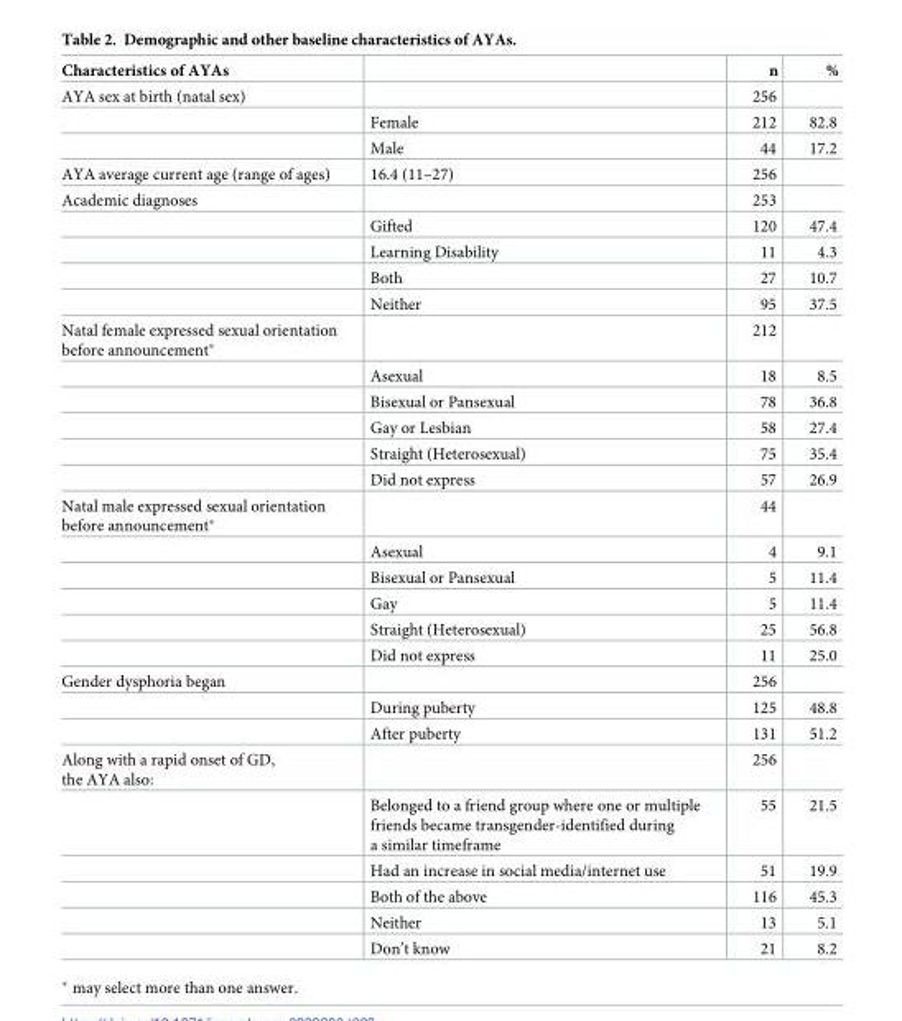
<table><thead><tr><td>Characteristics of AYAs</td><td></td><td>n</td><td>%</td></tr></thead><tbody><tr><td rowspan="3">AYA sex at birth (natal sex)</td><td></td><td>256</td><td></td></tr><tr><td>Female</td><td>212</td><td>82.8</td></tr><tr><td>Male</td><td>44</td><td>17.2</td></tr><tr><td>AYA average current age (range of ages)</td><td>16.4 (11–27)</td><td>256</td><td></td></tr><tr><td rowspan="5">Academic diagnoses</td><td></td><td>253</td><td></td></tr><tr><td>Gifted</td><td>120</td><td>47.4</td></tr><tr><td>Learning Disability</td><td>11</td><td>4.3</td></tr><tr><td>Both</td><td>27</td><td>10.7</td></tr><tr><td>Neither</td><td>95</td><td>37.5</td></tr><tr><td rowspan="6">Natal female expressed sexual orientation before announcement*</td><td></td><td>212</td><td></td></tr><tr><td>Asexual</td><td>18</td><td>8.5</td></tr><tr><td>Bisexual or Pansexual</td><td>78</td><td>36.8</td></tr><tr><td>Gay or Lesbian</td><td>58</td><td>27.4</td></tr><tr><td>Straight (Heterosexual)</td><td>75</td><td>35.4</td></tr><tr><td>Did not express</td><td>57</td><td>26.9</td></tr><tr><td rowspan="6">Natal male expressed sexual orientation before announcement*</td><td></td><td>44</td><td></td></tr><tr><td>Asexual</td><td>4</td><td>9.1</td></tr><tr><td>Bisexual or Pansexual</td><td>5</td><td>11.4</td></tr><tr><td>Gay</td><td>5</td><td>11.4</td></tr><tr><td>Straight (Heterosexual)</td><td>25</td><td>56.8</td></tr><tr><td>Did not express</td><td>11</td><td>25.0</td></tr><tr><td rowspan="3">Gender dysphoria began</td><td></td><td>256</td><td></td></tr><tr><td>During puberty</td><td>125</td><td>48.8</td></tr><tr><td>After puberty</td><td>131</td><td>51.2</td></tr><tr><td rowspan="6">Along with a rapid onset of GD, the AYA also:</td><td></td><td>256</td><td></td></tr><tr><td>Belonged to a friend group where one or multiple friends became transgender-identified during a similar timeframe</td><td>55</td><td>21.5</td></tr><tr><td>Had an increase in social media/internet use</td><td>51</td><td>19.9</td></tr><tr><td>Both of the above</td><td>116</td><td>45.3</td></tr><tr><td>Neither</td><td>13</td><td>5.1</td></tr><tr><td>Don’t know</td><td>21</td><td>8.2</td></tr></tbody></table>